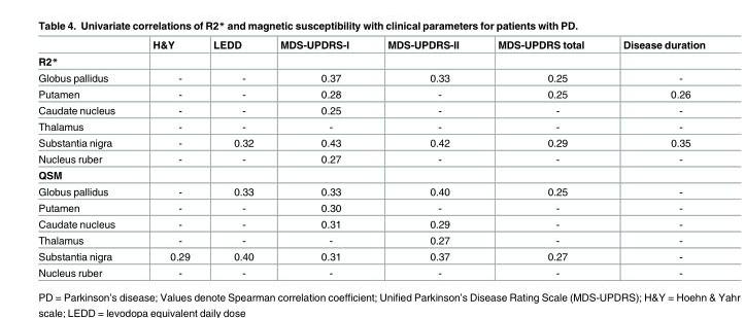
<table><thead><tr><td></td><td>H&amp;Y</td><td>LEDD</td><td>MDS-UPDRS-I</td><td>MDS-UPDRS-II</td><td>MDS-UPDRS total</td><td>Disease duration</td></tr></thead><tbody><tr><td colspan="7">R2*</td></tr><tr><td>Globus pallidus</td><td>-</td><td>-</td><td>0.37</td><td>0.33</td><td>0.25</td><td>-</td></tr><tr><td>Putamen</td><td>-</td><td>-</td><td>0.28</td><td>-</td><td>0.25</td><td>0.26</td></tr><tr><td>Caudate nucleus</td><td>-</td><td>-</td><td>0.25</td><td>-</td><td>-</td><td>-</td></tr><tr><td>Thalamus</td><td>-</td><td>-</td><td>-</td><td>-</td><td>-</td><td>-</td></tr><tr><td>Substantia nigra</td><td>-</td><td>0.32</td><td>0.43</td><td>0.42</td><td>0.29</td><td>0.35</td></tr><tr><td>Nucleus ruber</td><td>-</td><td>-</td><td>0.27</td><td>-</td><td>-</td><td>-</td></tr><tr><td colspan="7">QSM</td></tr><tr><td>Globus pallidus</td><td>-</td><td>0.33</td><td>0.33</td><td>0.40</td><td>0.25</td><td>-</td></tr><tr><td>Putamen</td><td>-</td><td>-</td><td>0.30</td><td>-</td><td>-</td><td>-</td></tr><tr><td>Caudate nucleus</td><td>-</td><td>-</td><td>0.31</td><td>0.29</td><td>-</td><td>-</td></tr><tr><td>Thalamus</td><td>-</td><td>-</td><td>-</td><td>0.27</td><td>-</td><td>-</td></tr><tr><td>Substantia nigra</td><td>0.29</td><td>0.40</td><td>0.31</td><td>0.37</td><td>0.27</td><td>-</td></tr><tr><td>Nucleus ruber</td><td>-</td><td>-</td><td>-</td><td>-</td><td>-</td><td>-</td></tr></tbody></table>